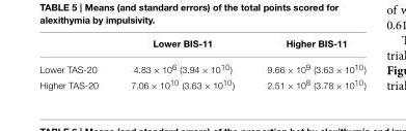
<table><thead><tr><td></td><td>Lower BIS-11</td><td>Higher BIS-11</td></tr></thead><tbody><tr><td>Lower TAS-20</td><td>4.83 × 10<sup>6</sup> (3.94 × 10<sup>10</sup>)</td><td>9.66 × 10<sup>9</sup> (3.63 × 10<sup>10</sup>)</td></tr><tr><td>Higher TAS-20</td><td>7.06 × 10<sup>10</sup> (3.63 × 10<sup>10</sup>)</td><td>2.51 × 10<sup>8</sup> (3.78 × 10<sup>10</sup>)</td></tr></tbody></table>